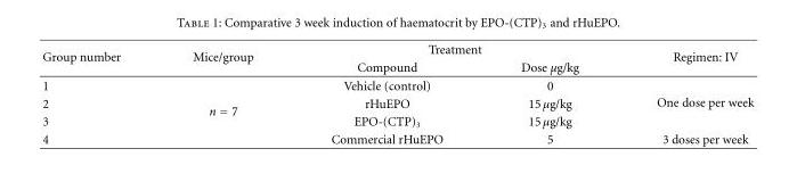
<table><thead><tr><td rowspan="2">Group number</td><td rowspan="2">Mice/group</td><td colspan="2">Treatment</td><td rowspan="2">Regimen: IV</td></tr><tr><td>Compound</td><td>Dose μg/kg</td></tr></thead><tbody><tr><td>1</td><td rowspan="4">n = 7</td><td>Vehicle (control)</td><td>0</td><td rowspan="3">One dose per week</td></tr><tr><td>2</td><td>rHuEPO</td><td>15 μg/kg</td></tr><tr><td>3</td><td>EPO-(CTP)<sub>3</sub></td><td>15 μg/kg</td></tr><tr><td>4</td><td>Commercial rHuEPO</td><td>5</td><td>3 doses per week</td></tr></tbody></table>